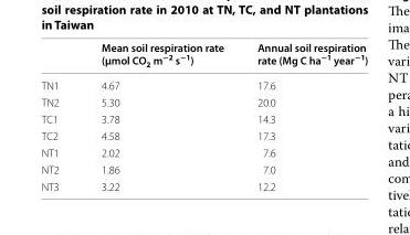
<table><thead><tr><td></td><td>Mean soil respiration rate (μmol CO<sub>2</sub> m<sup>−2</sup> s<sup>−1</sup>)</td><td>Annual soil respiration rate (Mg C ha<sup>−1</sup> year<sup>−1</sup>)</td></tr></thead><tbody><tr><td>TN1</td><td>4.67</td><td>17.6</td></tr><tr><td>TN2</td><td>5.30</td><td>20.0</td></tr><tr><td>TC1</td><td>3.78</td><td>14.3</td></tr><tr><td>TC2</td><td>4.58</td><td>17.3</td></tr><tr><td>NT1</td><td>2.02</td><td>7.6</td></tr><tr><td>NT2</td><td>1.86</td><td>7.0</td></tr><tr><td>NT3</td><td>3.22</td><td>12.2</td></tr></tbody></table>